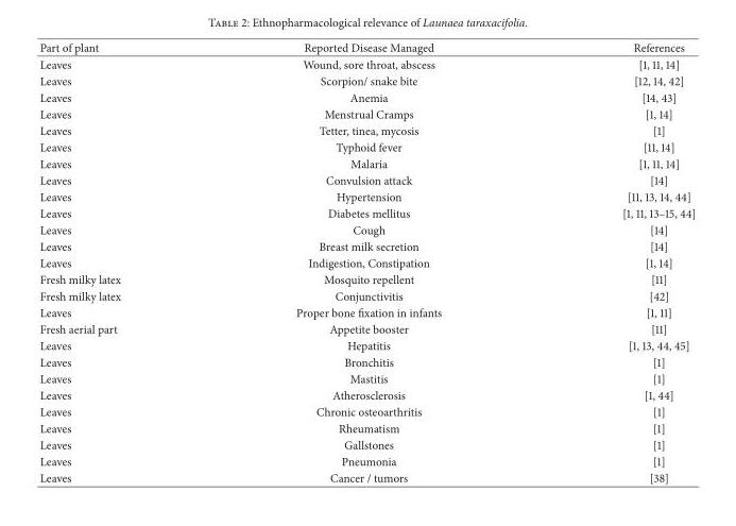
<table><thead><tr><td>Part of plant</td><td>Reported Disease Managed</td><td>References</td></tr></thead><tbody><tr><td>Leaves</td><td>Wound, sore throat, abscess</td><td>[1, 11, 14]</td></tr><tr><td>Leaves</td><td>Scorpion/ snake bite</td><td>[12, 14, 42]</td></tr><tr><td>Leaves</td><td>Anemia</td><td>[14, 43]</td></tr><tr><td>Leaves</td><td>Menstrual Cramps</td><td>[1, 14]</td></tr><tr><td>Leaves</td><td>Tetter, tinea, mycosis</td><td>[1]</td></tr><tr><td>Leaves</td><td>Typhoid fever</td><td>[11, 14]</td></tr><tr><td>Leaves</td><td>Malaria</td><td>[1, 11, 14]</td></tr><tr><td>Leaves</td><td>Convulsion attack</td><td>[14]</td></tr><tr><td>Leaves</td><td>Hypertension</td><td>[11, 13, 14, 44]</td></tr><tr><td>Leaves</td><td>Diabetes mellitus</td><td>[1, 11, 13–15, 44]</td></tr><tr><td>Leaves</td><td>Cough</td><td>[14]</td></tr><tr><td>Leaves</td><td>Breast milk secretion</td><td>[14]</td></tr><tr><td>Leaves</td><td>Indigestion, Constipation</td><td>[1, 14]</td></tr><tr><td>Fresh milky latex</td><td>Mosquito repellent</td><td>[11]</td></tr><tr><td>Fresh milky latex</td><td>Conjunctivitis</td><td>[42]</td></tr><tr><td>Leaves</td><td>Proper bone fixation in infants</td><td>[1, 11]</td></tr><tr><td>Fresh aerial part</td><td>Appetite booster</td><td>[11]</td></tr><tr><td>Leaves</td><td>Hepatitis</td><td>[1, 13, 44, 45]</td></tr><tr><td>Leaves</td><td>Bronchitis</td><td>[1]</td></tr><tr><td>Leaves</td><td>Mastitis</td><td>[1]</td></tr><tr><td>Leaves</td><td>Atherosclerosis</td><td>[1, 44]</td></tr><tr><td>Leaves</td><td>Chronic osteoarthritis</td><td>[1]</td></tr><tr><td>Leaves</td><td>Rheumatism</td><td>[1]</td></tr><tr><td>Leaves</td><td>Gallstones</td><td>[1]</td></tr><tr><td>Leaves</td><td>Pneumonia</td><td>[1]</td></tr><tr><td>Leaves</td><td>Cancer / tumors</td><td>[38]</td></tr></tbody></table>